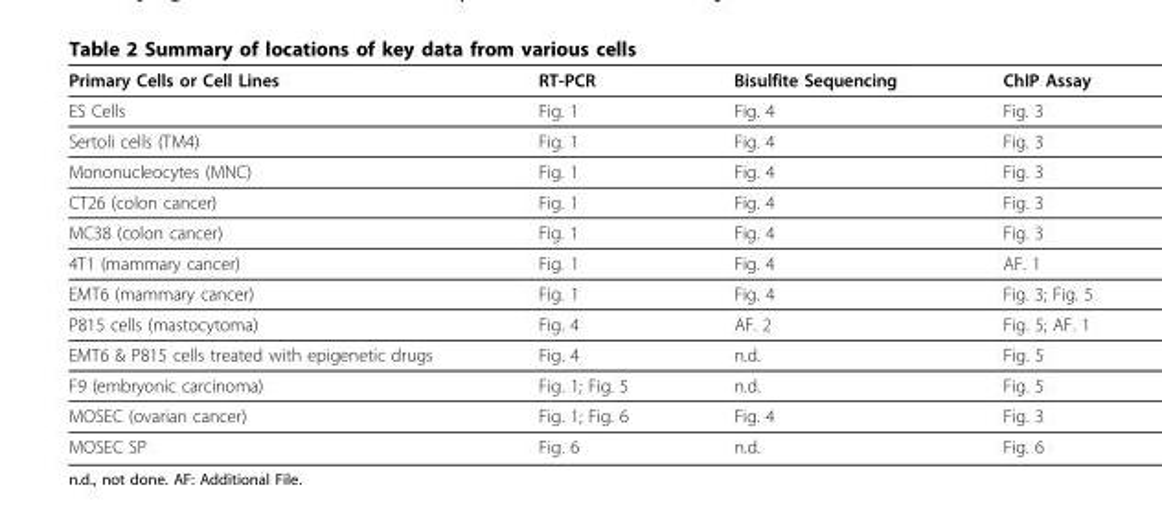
<table><thead><tr><td>Primary Cells or Cell Lines</td><td>RT-PCR</td><td>Bisulfite Sequencing</td><td>ChIP Assay</td></tr></thead><tbody><tr><td>ES Cells</td><td>Fig. 1</td><td>Fig. 4</td><td>Fig. 3</td></tr><tr><td>Sertoli cells (TM4)</td><td>Fig. 1</td><td>Fig. 4</td><td>Fig. 3</td></tr><tr><td>Mononucleocytes (MNC)</td><td>Fig. 1</td><td>Fig. 4</td><td>Fig. 3</td></tr><tr><td>CT26 (colon cancer)</td><td>Fig. 1</td><td>Fig. 4</td><td>Fig. 3</td></tr><tr><td>MC38 (colon cancer)</td><td>Fig. 1</td><td>Fig. 4</td><td>Fig. 3</td></tr><tr><td>4T1 (mammary cancer)</td><td>Fig. 1</td><td>Fig. 4</td><td>AF. 1</td></tr><tr><td>EMT6 (mammary cancer)</td><td>Fig. 1</td><td>Fig. 4</td><td>Fig. 3; Fig. 5</td></tr><tr><td>P815 cells (mastocytoma)</td><td>Fig. 4</td><td>AF. 2</td><td>Fig. 5; AF. 1</td></tr><tr><td>EMT6 &amp; P815 cells treated with epigenetic drugs</td><td>Fig. 4</td><td>n.d.</td><td>Fig. 5</td></tr><tr><td>F9 (embryonic carcinoma)</td><td>Fig. 1; Fig. 5</td><td>n.d.</td><td>Fig. 5</td></tr><tr><td>MOSEC (ovarian cancer)</td><td>Fig. 1; Fig. 6</td><td>Fig. 4</td><td>Fig. 3</td></tr><tr><td>MOSEC SP</td><td>Fig. 6</td><td>n.d.</td><td>Fig. 6</td></tr></tbody></table>